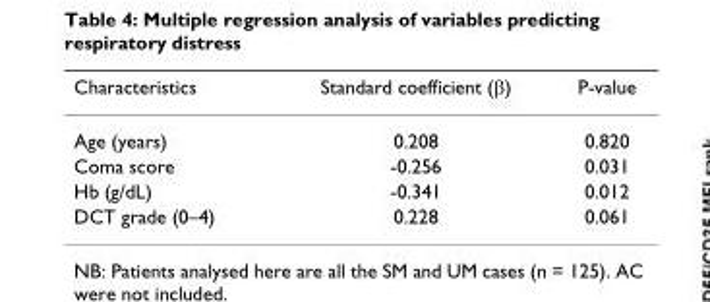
<table><thead><tr><td>Characteristics</td><td>Standard coefficient (β)</td><td>P-value</td></tr></thead><tbody><tr><td>Age (years)</td><td>0.208</td><td>0.820</td></tr><tr><td>Coma score</td><td>-0.256</td><td>0.031</td></tr><tr><td>Hb (g/dL)</td><td>-0.341</td><td>0.012</td></tr><tr><td>DCT grade (0–4)</td><td>0.228</td><td>0.061</td></tr></tbody></table>